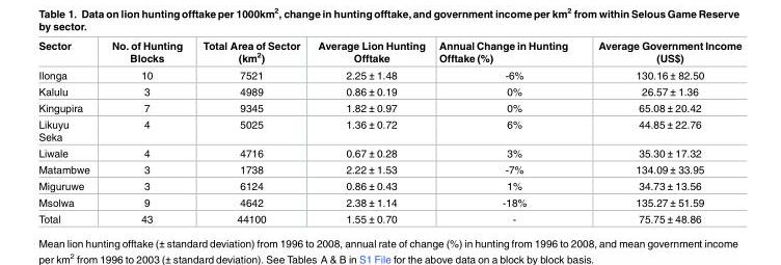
<table><thead><tr><td>Sector</td><td>No. of Hunting Blocks</td><td>Total Area of Sector (km<sup>2</sup>)</td><td>Average Lion Hunting Offtake</td><td>Annual Change in Hunting Offtake (%)</td><td>Average Government Income (US$)</td></tr></thead><tbody><tr><td>Ilonga</td><td>10</td><td>7521</td><td>2.25 ± 1.48</td><td>-6%</td><td>130.16 ± 82.50</td></tr><tr><td>Kalulu</td><td>3</td><td>4989</td><td>0.86 ± 0.19</td><td>0%</td><td>26.57 ± 1.36</td></tr><tr><td>Kingupira</td><td>7</td><td>9345</td><td>1.82 ± 0.97</td><td>0%</td><td>65.08 ± 20.42</td></tr><tr><td>Likuyu Seka</td><td>4</td><td>5025</td><td>1.36 ± 0.72</td><td>6%</td><td>44.85 ± 22.76</td></tr><tr><td>Liwale</td><td>4</td><td>4716</td><td>0.67 ± 0.28</td><td>3%</td><td>35.30 ± 17.32</td></tr><tr><td>Matambwe</td><td>3</td><td>1738</td><td>2.22 ± 1.53</td><td>-7%</td><td>134.09 ± 33.95</td></tr><tr><td>Miguruwe</td><td>3</td><td>6124</td><td>0.86 ± 0.43</td><td>1%</td><td>34.73 ± 13.56</td></tr><tr><td>Msolwa</td><td>9</td><td>4642</td><td>2.38 ± 1.14</td><td>-18%</td><td>135.27 ± 51.59</td></tr><tr><td>Total</td><td>43</td><td>44100</td><td>1.55 ± 0.70</td><td>-</td><td>75.75 ± 48.86</td></tr></tbody></table>